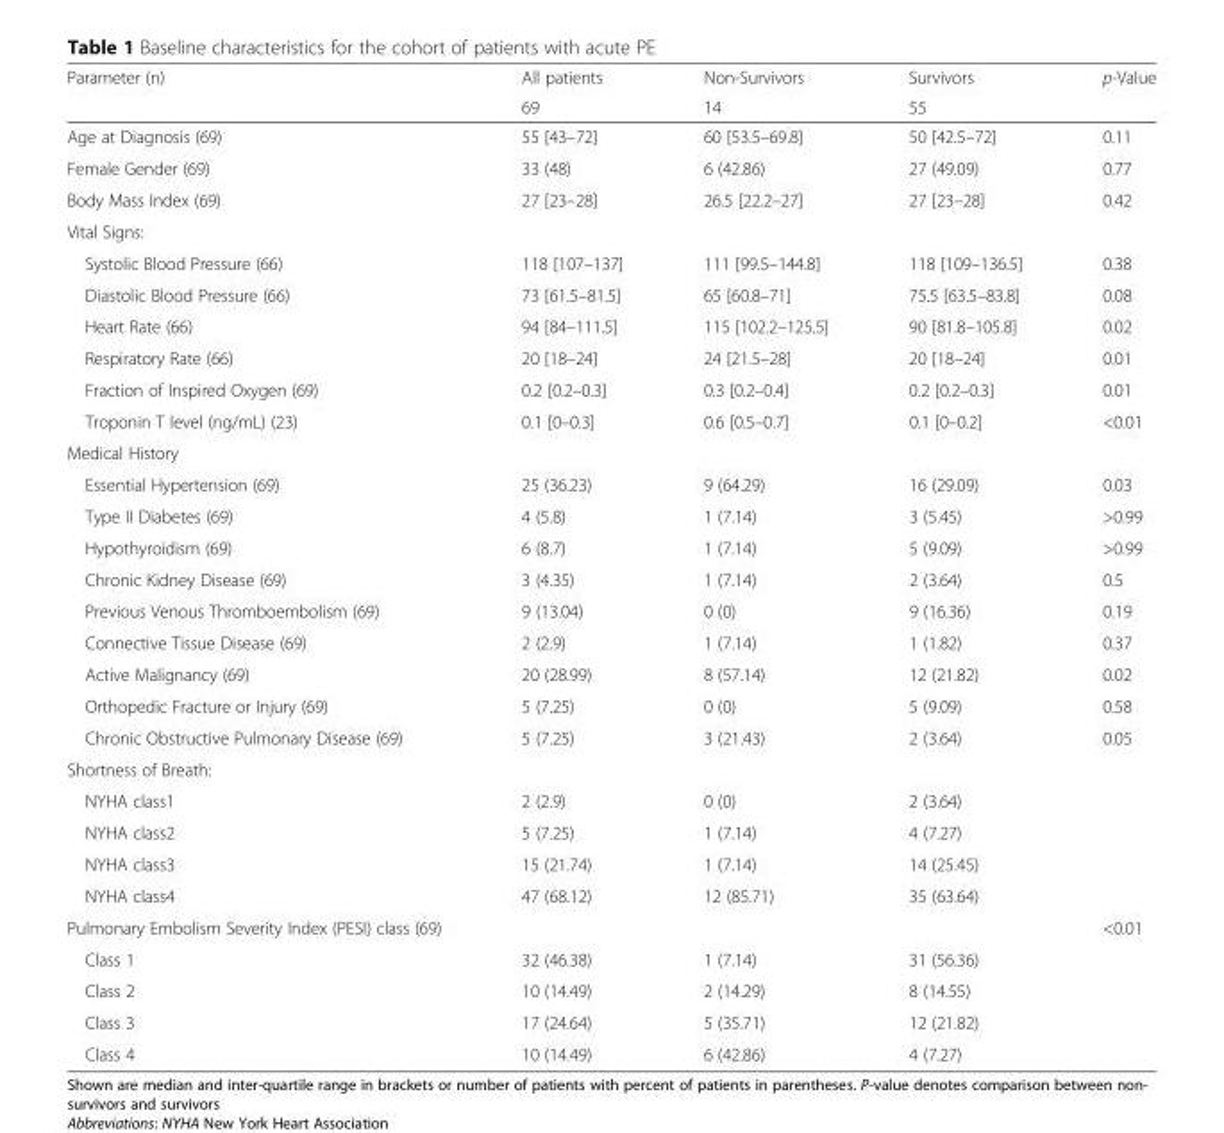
<table><thead><tr><td rowspan="2">Parameter (n)</td><td rowspan="2">All patients 69</td><td rowspan="2">Non-Survivors 14</td><td rowspan="2">Survivors 55</td><td rowspan="2">p-Value</td></tr><tr></tr></thead><tbody><tr><td>Age at Diagnosis (69)</td><td>55 [43–72]</td><td>60 [53.5–69.8]</td><td>50 [42.5–72]</td><td>0.11</td></tr><tr><td>Female Gender (69)</td><td>33 (48)</td><td>6 (42.86)</td><td>27 (49.09)</td><td>0.77</td></tr><tr><td>Body Mass Index (69)</td><td>27 [23–28]</td><td>26.5 [22.2–27]</td><td>27 [23–28]</td><td>0.42</td></tr><tr><td colspan="5">Vital Signs:</td></tr><tr><td>Systolic Blood Pressure (66)</td><td>118 [107–137]</td><td>111 [99.5–144.8]</td><td>118 [109–136.5]</td><td>0.38</td></tr><tr><td>Diastolic Blood Pressure (66)</td><td>73 [61.5–81.5]</td><td>65 [60.8–71]</td><td>75.5 [63.5–83.8]</td><td>0.08</td></tr><tr><td>Heart Rate (66)</td><td>94 [84–111.5]</td><td>115 [102.2–125.5]</td><td>90 [81.8–105.8]</td><td>0.02</td></tr><tr><td>Respiratory Rate (66)</td><td>20 [18–24]</td><td>24 [21.5–28]</td><td>20 [18–24]</td><td>0.01</td></tr><tr><td>Fraction of Inspired Oxygen (69)</td><td>0.2 [0.2–0.3]</td><td>0.3 [0.2–0.4]</td><td>0.2 [0.2–0.3]</td><td>0.01</td></tr><tr><td>Troponin T level (ng/mL) (23)</td><td>0.1 [0–0.3]</td><td>0.6 [0.5–0.7]</td><td>0.1 [0–0.2]</td><td>&lt;0.01</td></tr><tr><td colspan="5">Medical History</td></tr><tr><td>Essential Hypertension (69)</td><td>25 (36.23)</td><td>9 (64.29)</td><td>16 (29.09)</td><td>0.03</td></tr><tr><td>Type II Diabetes (69)</td><td>4 (5.8)</td><td>1 (7.14)</td><td>3 (5.45)</td><td>&gt;0.99</td></tr><tr><td>Hypothyroidism (69)</td><td>6 (8.7)</td><td>1 (7.14)</td><td>5 (9.09)</td><td>&gt;0.99</td></tr><tr><td>Chronic Kidney Disease (69)</td><td>3 (4.35)</td><td>1 (7.14)</td><td>2 (3.64)</td><td>0.5</td></tr><tr><td>Previous Venous Thromboembolism (69)</td><td>9 (13.04)</td><td>0 (0)</td><td>9 (16.36)</td><td>0.19</td></tr><tr><td>Connective Tissue Disease (69)</td><td>2 (2.9)</td><td>1 (7.14)</td><td>1 (1.82)</td><td>0.37</td></tr><tr><td>Active Malignancy (69)</td><td>20 (28.99)</td><td>8 (57.14)</td><td>12 (21.82)</td><td>0.02</td></tr><tr><td>Orthopedic Fracture or Injury (69)</td><td>5 (7.25)</td><td>0 (0)</td><td>5 (9.09)</td><td>0.58</td></tr><tr><td>Chronic Obstructive Pulmonary Disease (69)</td><td>5 (7.25)</td><td>3 (21.43)</td><td>2 (3.64)</td><td>0.05</td></tr><tr><td colspan="5">Shortness of Breath:</td></tr><tr><td>NYHA class1</td><td>2 (2.9)</td><td>0 (0)</td><td>2 (3.64)</td><td></td></tr><tr><td>NYHA class2</td><td>5 (7.25)</td><td>1 (7.14)</td><td>4 (7.27)</td><td></td></tr><tr><td>NYHA class3</td><td>15 (21.74)</td><td>1 (7.14)</td><td>14 (25.45)</td><td></td></tr><tr><td>NYHA class4</td><td>47 (68.12)</td><td>12 (85.71)</td><td>35 (63.64)</td><td></td></tr><tr><td>Pulmonary Embolism Severity Index (PESI) class (69)</td><td></td><td></td><td></td><td>&lt;0.01</td></tr><tr><td>Class 1</td><td>32 (46.38)</td><td>1 (7.14)</td><td>31 (56.36)</td><td></td></tr><tr><td>Class 2</td><td>10 (14.49)</td><td>2 (14.29)</td><td>8 (14.55)</td><td></td></tr><tr><td>Class 3</td><td>17 (24.64)</td><td>5 (35.71)</td><td>12 (21.82)</td><td></td></tr><tr><td>Class 4</td><td>10 (14.49)</td><td>6 (42.86)</td><td>4 (7.27)</td><td></td></tr></tbody></table>